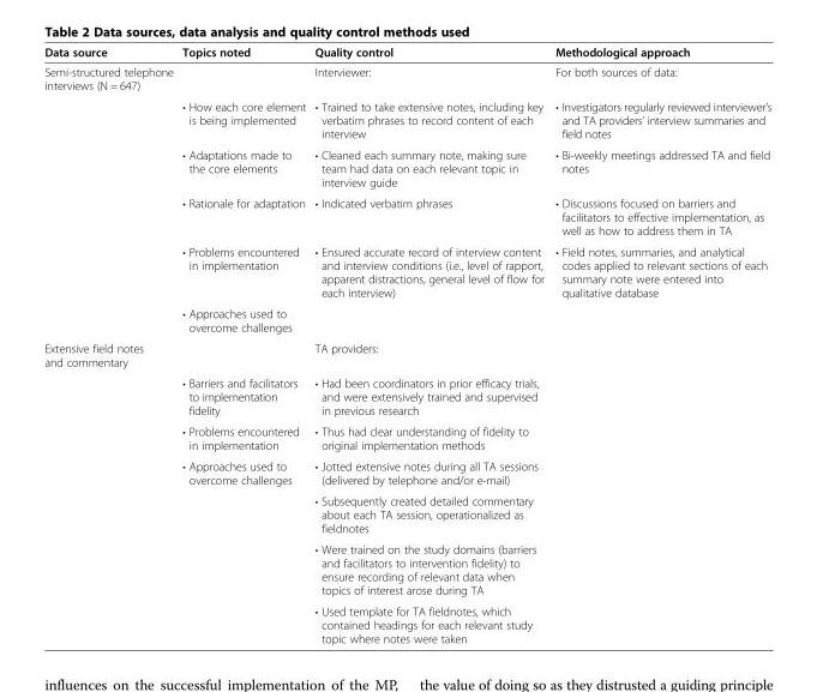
<table><thead><tr><td>Data source</td><td>Topics noted</td><td>Quality control</td><td>Methodological approach</td></tr></thead><tbody><tr><td rowspan="6">Semi-structured telephone interviews (N = 647)</td><td></td><td>Interviewer:</td><td>For both sources of data:</td></tr><tr><td>• How each core element is being implemented</td><td>• Trained to take extensive notes, including key verbatim phrases to record content of each interview</td><td>• Investigators regularly reviewed interviewer’s and TA providers’ interview summaries and field notes</td></tr><tr><td>• Adaptations made to the core elements</td><td>• Cleaned each summary note, making sure team had data on each relevant topic in interview guide</td><td>• Bi-weekly meetings addressed TA and field notes</td></tr><tr><td>• Rationale for adaptation</td><td>• Indicated verbatim phrases</td><td>• Discussions focused on barriers and facilitators to effective implementation, as well as how to address them in TA</td></tr><tr><td>• Problems encountered in implementation</td><td>• Ensured accurate record of interview content and interview conditions (i.e., level of rapport, apparent distractions, general level of flow for each interview)</td><td>• Field notes, summaries, and analytical codes applied to relevant sections of each summary note were entered into qualitative database</td></tr><tr><td>• Approaches used to overcome challenges</td><td></td><td></td></tr><tr><td rowspan="7">Extensive field notes and commentary</td><td></td><td>TA providers:</td><td></td></tr><tr><td>• Barriers and facilitators to implementation fidelity</td><td>• Had been coordinators in prior efficacy trials, and were extensively trained and supervised in previous research</td><td></td></tr><tr><td>• Problems encountered in implementation</td><td>• Thus had clear understanding of fidelity to original implementation methods</td><td></td></tr><tr><td>• Approaches used to overcome challenges</td><td>• Jotted extensive notes during all TA sessions (delivered by telephone and/or e-mail)</td><td></td></tr><tr><td></td><td>• Subsequently created detailed commentary about each TA session, operationalized as fieldnotes</td><td></td></tr><tr><td></td><td>• Were trained on the study domains (barriers and facilitators to intervention fidelity) to ensure recording of relevant data when topics of interest arose during TA</td><td></td></tr><tr><td></td><td>• Used template for TA fieldnotes, which contained headings for each relevant study topic where notes were taken</td><td></td></tr></tbody></table>